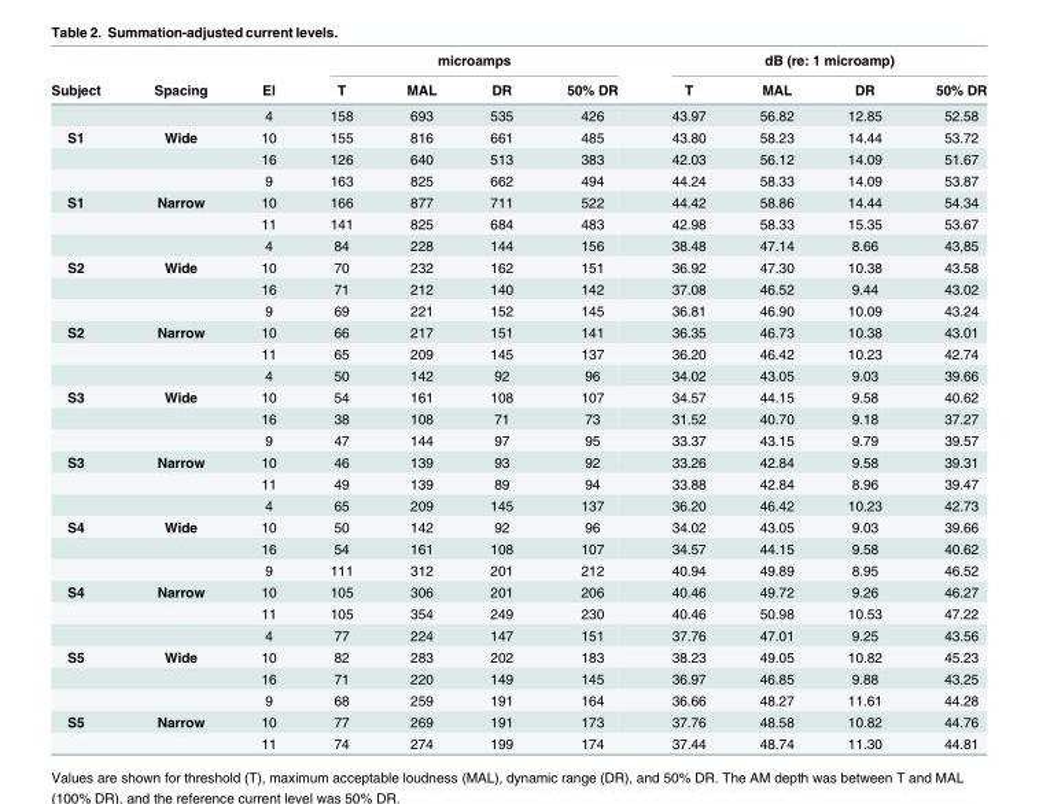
<table><thead><tr><td rowspan="2">Subject</td><td rowspan="2">Spacing</td><td rowspan="2">El</td><td colspan="4">microamps</td><td colspan="4">dB (re: 1 microamp)</td></tr><tr><td>T</td><td>MAL</td><td>DR</td><td>50% DR</td><td>T</td><td>MAL</td><td>DR</td><td>50% DR</td></tr></thead><tbody><tr><td></td><td></td><td>4</td><td>158</td><td>693</td><td>535</td><td>426</td><td>43.97</td><td>56.82</td><td>12.85</td><td>52.58</td></tr><tr><td rowspan="3">S1</td><td>Wide</td><td>10</td><td>155</td><td>816</td><td>661</td><td>485</td><td>43.80</td><td>58.23</td><td>14.44</td><td>53.72</td></tr><tr><td></td><td>16</td><td>126</td><td>640</td><td>513</td><td>383</td><td>42.03</td><td>56.12</td><td>14.09</td><td>51.67</td></tr><tr><td></td><td>9</td><td>163</td><td>825</td><td>662</td><td>494</td><td>44.24</td><td>58.33</td><td>14.09</td><td>53.87</td></tr><tr><td rowspan="3">S1</td><td>Narrow</td><td>10</td><td>166</td><td>877</td><td>711</td><td>522</td><td>44.42</td><td>58.86</td><td>14.44</td><td>54.34</td></tr><tr><td></td><td>11</td><td>141</td><td>825</td><td>684</td><td>483</td><td>42.98</td><td>58.33</td><td>15.35</td><td>53.67</td></tr><tr><td></td><td>4</td><td>84</td><td>228</td><td>144</td><td>156</td><td>38.48</td><td>47.14</td><td>8.66</td><td>43,85</td></tr><tr><td rowspan="3">S2</td><td>Wide</td><td>10</td><td>70</td><td>232</td><td>162</td><td>151</td><td>36.92</td><td>47.30</td><td>10.38</td><td>43.58</td></tr><tr><td></td><td>16</td><td>71</td><td>212</td><td>140</td><td>142</td><td>37.08</td><td>46.52</td><td>9.44</td><td>43.02</td></tr><tr><td></td><td>9</td><td>69</td><td>221</td><td>152</td><td>145</td><td>36.81</td><td>46.90</td><td>10.09</td><td>43.24</td></tr><tr><td rowspan="3">S2</td><td>Narrow</td><td>10</td><td>66</td><td>217</td><td>151</td><td>141</td><td>36.35</td><td>46.73</td><td>10.38</td><td>43.01</td></tr><tr><td></td><td>11</td><td>65</td><td>209</td><td>145</td><td>137</td><td>36.20</td><td>46.42</td><td>10.23</td><td>42.74</td></tr><tr><td></td><td>4</td><td>50</td><td>142</td><td>92</td><td>96</td><td>34.02</td><td>43.05</td><td>9.03</td><td>39.66</td></tr><tr><td rowspan="3">S3</td><td>Wide</td><td>10</td><td>54</td><td>161</td><td>108</td><td>107</td><td>34.57</td><td>44.15</td><td>9.58</td><td>40.62</td></tr><tr><td></td><td>16</td><td>38</td><td>108</td><td>71</td><td>73</td><td>31.52</td><td>40.70</td><td>9.18</td><td>37.27</td></tr><tr><td></td><td>9</td><td>47</td><td>144</td><td>97</td><td>95</td><td>33.37</td><td>43.15</td><td>9.79</td><td>39.57</td></tr><tr><td rowspan="3">S3</td><td>Narrow</td><td>10</td><td>46</td><td>139</td><td>93</td><td>92</td><td>33.26</td><td>42.84</td><td>9.58</td><td>39.31</td></tr><tr><td></td><td>11</td><td>49</td><td>139</td><td>89</td><td>94</td><td>33.88</td><td>42.84</td><td>8.96</td><td>39.47</td></tr><tr><td></td><td>4</td><td>65</td><td>209</td><td>145</td><td>137</td><td>36.20</td><td>46.42</td><td>10.23</td><td>42.73</td></tr><tr><td rowspan="3">S4</td><td>Wide</td><td>10</td><td>50</td><td>142</td><td>92</td><td>96</td><td>34.02</td><td>43.05</td><td>9.03</td><td>39.66</td></tr><tr><td></td><td>16</td><td>54</td><td>161</td><td>108</td><td>107</td><td>34.57</td><td>44.15</td><td>9.58</td><td>40.62</td></tr><tr><td></td><td>9</td><td>111</td><td>312</td><td>201</td><td>212</td><td>40.94</td><td>49.89</td><td>8.95</td><td>46.52</td></tr><tr><td rowspan="3">S4</td><td>Narrow</td><td>10</td><td>105</td><td>306</td><td>201</td><td>206</td><td>40.46</td><td>49.72</td><td>9.26</td><td>46.27</td></tr><tr><td></td><td>11</td><td>105</td><td>354</td><td>249</td><td>230</td><td>40.46</td><td>50.98</td><td>10.53</td><td>47.22</td></tr><tr><td></td><td>4</td><td>77</td><td>224</td><td>147</td><td>151</td><td>37.76</td><td>47.01</td><td>9.25</td><td>43.56</td></tr><tr><td rowspan="3">S5</td><td>Wide</td><td>10</td><td>82</td><td>283</td><td>202</td><td>183</td><td>38.23</td><td>49.05</td><td>10.82</td><td>45.23</td></tr><tr><td></td><td>16</td><td>71</td><td>220</td><td>149</td><td>145</td><td>36.97</td><td>46.85</td><td>9.88</td><td>43.25</td></tr><tr><td></td><td>9</td><td>68</td><td>259</td><td>191</td><td>164</td><td>36.66</td><td>48.27</td><td>11.61</td><td>44.28</td></tr><tr><td rowspan="2">S5</td><td>Narrow</td><td>10</td><td>77</td><td>269</td><td>191</td><td>173</td><td>37.76</td><td>48.58</td><td>10.82</td><td>44.76</td></tr><tr><td></td><td>11</td><td>74</td><td>274</td><td>199</td><td>174</td><td>37.44</td><td>48.74</td><td>11.30</td><td>44.81</td></tr></tbody></table>